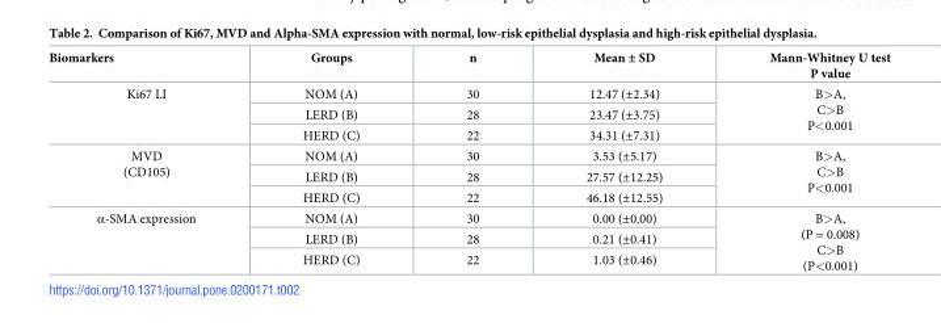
<table><thead><tr><td>Biomarkers</td><td>Groups</td><td>n</td><td>Mean ± SD</td><td>Mann-Whitney U test P value</td></tr></thead><tbody><tr><td rowspan="3">Ki67 LI</td><td>NOM (A)</td><td>30</td><td>12.47 (±2.34)</td><td rowspan="3">B&gt;A, C&gt;B P&lt;0.001</td></tr><tr><td>LERD (B)</td><td>28</td><td>23.47 (±3.75)</td></tr><tr><td>HERD (C)</td><td>22</td><td>34.31 (±7.31)</td></tr><tr><td rowspan="3">MVD (CD105)</td><td>NOM (A)</td><td>30</td><td>3.53 (±5.17)</td><td rowspan="3">B&gt;A, C&gt;B P&lt;0.001</td></tr><tr><td>LERD (B)</td><td>28</td><td>27.57 (±12.25)</td></tr><tr><td>HERD (C)</td><td>22</td><td>46.18 (±12.55)</td></tr><tr><td rowspan="3">α-SMA expression</td><td>NOM (A)</td><td>30</td><td>0.00 (±0.00)</td><td rowspan="3">B&gt;A, (P = 0.008) C&gt;B (P&lt;0.001)</td></tr><tr><td>LERD (B)</td><td>28</td><td>0.21 (±0.41)</td></tr><tr><td>HERD (C)</td><td>22</td><td>1.03 (±0.46)</td></tr></tbody></table>